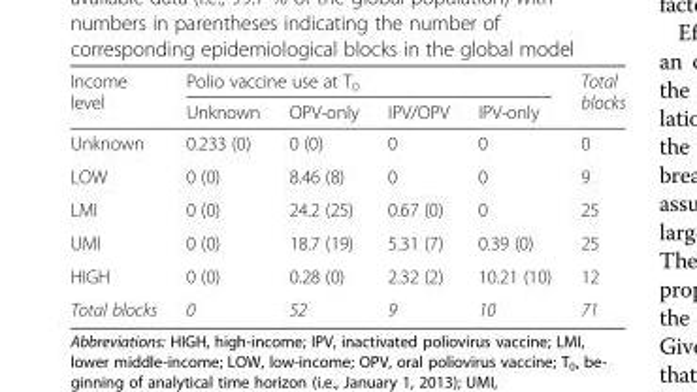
<table><thead><tr><td rowspan="2">Income level</td><td colspan="4">Polio vaccine use at T<sub>0</sub></td><td rowspan="2">Total blocks</td></tr><tr><td>Unknown</td><td>OPV-only</td><td>IPV/OPV</td><td>IPV-only</td></tr></thead><tbody><tr><td>Unknown</td><td>0.233 (0)</td><td>0 (0)</td><td>0</td><td>0</td><td>0</td></tr><tr><td>LOW</td><td>0 (0)</td><td>8.46 (8)</td><td>0</td><td>0</td><td>9</td></tr><tr><td>LMI</td><td>0 (0)</td><td>24.2 (25)</td><td>0.67 (0)</td><td>0</td><td>25</td></tr><tr><td>UMI</td><td>0 (0)</td><td>18.7 (19)</td><td>5.31 (7)</td><td>0.39 (0)</td><td>25</td></tr><tr><td>HIGH</td><td>0 (0)</td><td>0.28 (0)</td><td>2.32 (2)</td><td>10.21 (10)</td><td>12</td></tr><tr><td>Total blocks</td><td>0</td><td>52</td><td>9</td><td>10</td><td>71</td></tr></tbody></table>